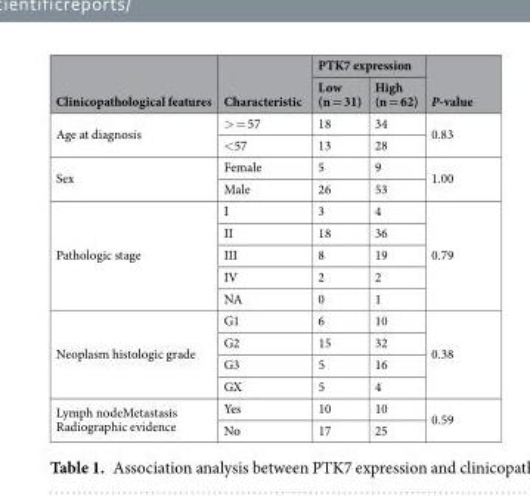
<table><thead><tr><td rowspan="2">Clinicopathological features</td><td rowspan="2">Characteristic</td><td colspan="2">PTK7 expression</td><td rowspan="2">P-value</td></tr><tr><td>Low (n = 31)</td><td>High (n = 62)</td></tr></thead><tbody><tr><td rowspan="2">Age at diagnosis</td><td>&gt; = 57</td><td>18</td><td>34</td><td rowspan="2">0.83</td></tr><tr><td>&lt;57</td><td>13</td><td>28</td></tr><tr><td rowspan="2">Sex</td><td>Female</td><td>5</td><td>9</td><td rowspan="2">1.00</td></tr><tr><td>Male</td><td>26</td><td>53</td></tr><tr><td rowspan="5">Pathologic stage</td><td>I</td><td>3</td><td>4</td><td rowspan="5">0.79</td></tr><tr><td>II</td><td>18</td><td>36</td></tr><tr><td>III</td><td>8</td><td>19</td></tr><tr><td>IV</td><td>2</td><td>2</td></tr><tr><td>NA</td><td>0</td><td>1</td></tr><tr><td rowspan="4">Neoplasm histologic grade</td><td>G1</td><td>6</td><td>10</td><td rowspan="4">0.38</td></tr><tr><td>G2</td><td>15</td><td>32</td></tr><tr><td>G3</td><td>5</td><td>16</td></tr><tr><td>GX</td><td>5</td><td>4</td></tr><tr><td rowspan="2">Lymph nodeMetastasis Radiographic evidence</td><td>Yes</td><td>10</td><td>10</td><td rowspan="2">0.59</td></tr><tr><td>No</td><td>17</td><td>25</td></tr></tbody></table>